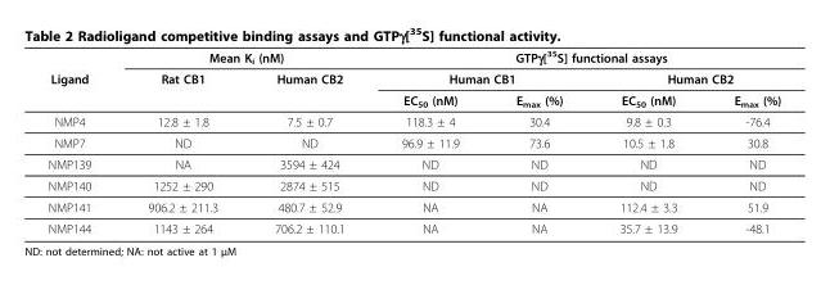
<table><thead><tr><td rowspan="3">Ligand</td><td colspan="2">Mean K<sub>i</sub> (nM)</td><td colspan="4">GTPγ[<sup>35</sup>S] functional assays</td></tr><tr><td rowspan="2">Rat CB1</td><td rowspan="2">Human CB2</td><td colspan="2">Human CB1</td><td colspan="2">Human CB2</td></tr><tr><td>EC<sub>50</sub> (nM)</td><td>E<sub>max</sub> (%)</td><td>EC<sub>50</sub> (nM)</td><td>E<sub>max</sub> (%)</td></tr></thead><tbody><tr><td>NMP4</td><td>12.8 ± 1.8</td><td>7.5 ± 0.7</td><td>118.3 ± 4</td><td>30.4</td><td>9.8 ± 0.3</td><td>-76.4</td></tr><tr><td>NMP7</td><td>ND</td><td>ND</td><td>96.9 ± 11.9</td><td>73.6</td><td>10.5 ± 1.8</td><td>30.8</td></tr><tr><td>NMP139</td><td>NA</td><td>3594 ± 424</td><td>ND</td><td>ND</td><td>ND</td><td>ND</td></tr><tr><td>NMP140</td><td>1252 ± 290</td><td>2874 ± 515</td><td>ND</td><td>ND</td><td>ND</td><td>ND</td></tr><tr><td>NMP141</td><td>906.2 ± 211.3</td><td>480.7 ± 52.9</td><td>NA</td><td>NA</td><td>112.4 ± 3.3</td><td>51.9</td></tr><tr><td>NMP144</td><td>1143 ± 264</td><td>706.2 ± 110.1</td><td>NA</td><td>NA</td><td>35.7 ± 13.9</td><td>-48.1</td></tr></tbody></table>